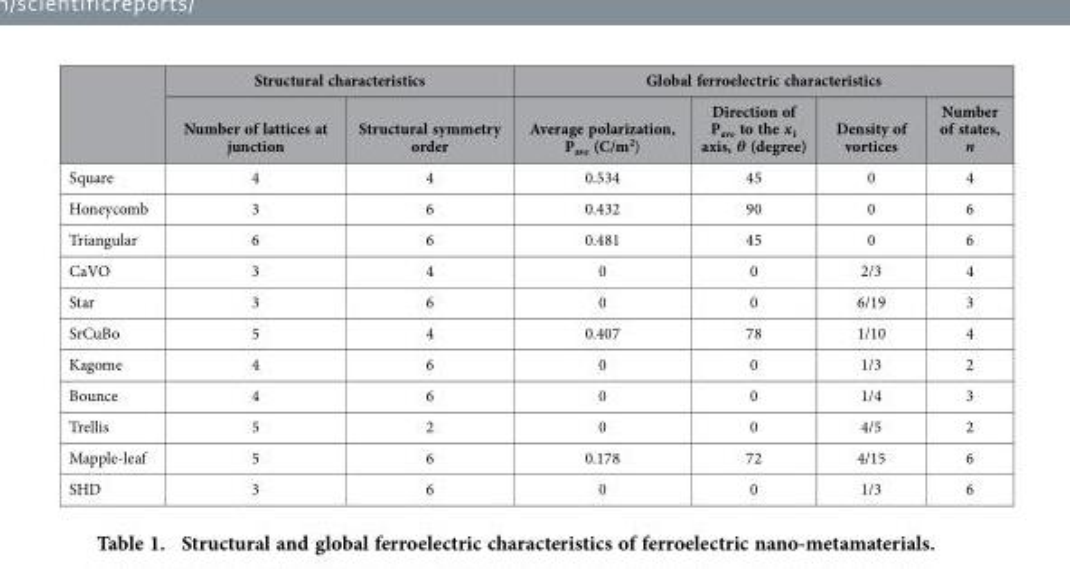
<table><thead><tr><td rowspan="2"></td><td colspan="2">Structural characteristics</td><td colspan="4">Global ferroelectric characteristics</td></tr><tr><td>Number of lattices at junction</td><td>Structural symmetry order</td><td>Average polarization, P<sub>ave</sub> (C/m<sup>2</sup>)</td><td>Direction of P<sub>ave</sub> to the x<sub>1</sub> axis, θ (degree)</td><td>Density of vortices</td><td>Number of states, n</td></tr></thead><tbody><tr><td>Square</td><td>4</td><td>4</td><td>0.534</td><td>45</td><td>0</td><td>4</td></tr><tr><td>Honeycomb</td><td>3</td><td>6</td><td>0.432</td><td>90</td><td>0</td><td>6</td></tr><tr><td>Triangular</td><td>6</td><td>6</td><td>0.481</td><td>45</td><td>0</td><td>6</td></tr><tr><td>CaVO</td><td>3</td><td>4</td><td>0</td><td>0</td><td>2/3</td><td>4</td></tr><tr><td>Star</td><td>3</td><td>6</td><td>0</td><td>0</td><td>6/19</td><td>3</td></tr><tr><td>SrCuBo</td><td>5</td><td>4</td><td>0.407</td><td>78</td><td>1/10</td><td>4</td></tr><tr><td>Kagome</td><td>4</td><td>6</td><td>0</td><td>0</td><td>1/3</td><td>2</td></tr><tr><td>Bounce</td><td>4</td><td>6</td><td>0</td><td>0</td><td>1/4</td><td>3</td></tr><tr><td>Trellis</td><td>5</td><td>2</td><td>0</td><td>0</td><td>4/5</td><td>2</td></tr><tr><td>Mapple-leaf</td><td>5</td><td>6</td><td>0.178</td><td>72</td><td>4/15</td><td>6</td></tr><tr><td>SHD</td><td>3</td><td>6</td><td>0</td><td>0</td><td>1/3</td><td>6</td></tr></tbody></table>